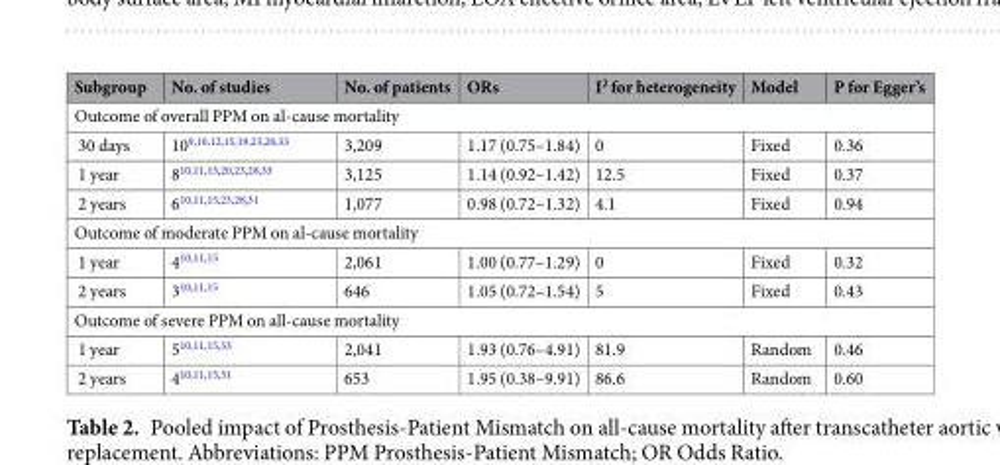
<table><thead><tr><td>Subgroup</td><td>No. of studies</td><td>No. of patients</td><td>ORs</td><td>I<sup>2</sup> for heterogeneity</td><td>Model</td><td>P for Egger’s</td></tr></thead><tbody><tr><td colspan="7">Outcome of overall PPM on al-cause mortality</td></tr><tr><td>30 days</td><td>10<sup>9,10,12,15,19,23,28,33</sup></td><td>3,209</td><td>1.17 (0.75–1.84)</td><td>0</td><td>Fixed</td><td>0.36</td></tr><tr><td>1 year</td><td>8<sup>10,11,15,20,23,28,33</sup></td><td>3,125</td><td>1.14 (0.92–1.42)</td><td>12.5</td><td>Fixed</td><td>0.37</td></tr><tr><td>2 years</td><td>6<sup>10,11,15,23,28,31</sup></td><td>1,077</td><td>0.98 (0.72–1.32)</td><td>4.1</td><td>Fixed</td><td>0.94</td></tr><tr><td colspan="7">Outcome of moderate PPM on al-cause mortality</td></tr><tr><td>1 year</td><td>4<sup>10,11,15</sup></td><td>2,061</td><td>1.00 (0.77–1.29)</td><td>0</td><td>Fixed</td><td>0.32</td></tr><tr><td>2 years</td><td>3<sup>10,11,15</sup></td><td>646</td><td>1.05 (0.72–1.54)</td><td>5</td><td>Fixed</td><td>0.43</td></tr><tr><td colspan="7">Outcome of severe PPM on all-cause mortality</td></tr><tr><td>1 year</td><td>5<sup>10,11,15,33</sup></td><td>2,041</td><td>1.93 (0.76–4.91)</td><td>81.9</td><td>Random</td><td>0.46</td></tr><tr><td>2 years</td><td>4<sup>10,11,15,31</sup></td><td>653</td><td>1.95 (0.38–9.91)</td><td>86.6</td><td>Random</td><td>0.60</td></tr></tbody></table>